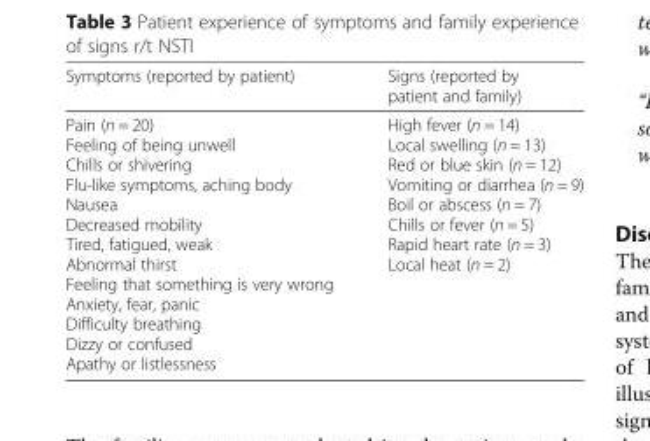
<table><thead><tr><td>Symptoms (reported by patient)</td><td>Signs (reported by patient and family)</td></tr></thead><tbody><tr><td>Pain (n = 20) Feeling of being unwell Chills or shivering Flu-like symptoms, aching body Nausea Decreased mobility Tired, fatigued, weak Abnormal thirst Feeling that something is very wrong Anxiety, fear, panic Difficulty breathing Dizzy or confused Apathy or listlessness</td><td>High fever (n = 14) Local swelling (n = 13) Red or blue skin (n = 12) Vomiting or diarrhea (n = 9) Boil or abscess (n = 7) Chills or fever (n = 5) Rapid heart rate (n = 3) Local heat (n = 2)</td></tr></tbody></table>